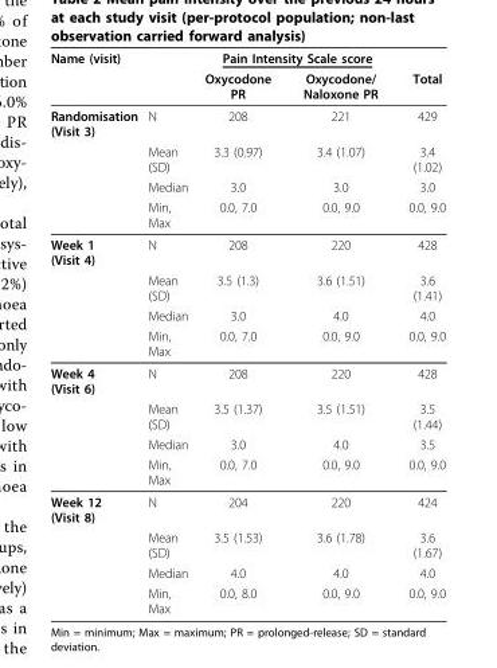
<table><thead><tr><td rowspan="2">Name (visit)</td><td colspan="4">Pain Intensity Scale score</td></tr><tr><td></td><td>Oxycodone PR</td><td>Oxycodone/ Naloxone PR</td><td>Total</td></tr></thead><tbody><tr><td rowspan="4">Randomisation (Visit 3)</td><td>N</td><td>208</td><td>221</td><td>429</td></tr><tr><td>Mean (SD)</td><td>3.3 (0.97)</td><td>3.4 (1.07)</td><td>3.4 (1.02)</td></tr><tr><td>Median</td><td>3.0</td><td>3.0</td><td>3.0</td></tr><tr><td>Min, Max</td><td>0.0, 7.0</td><td>0.0, 9.0</td><td>0.0, 9.0</td></tr><tr><td rowspan="4">Week 1 (Visit 4)</td><td>N</td><td>208</td><td>220</td><td>428</td></tr><tr><td>Mean (SD)</td><td>3.5 (1.3)</td><td>3.6 (1.51)</td><td>3.6 (1.41)</td></tr><tr><td>Median</td><td>3.0</td><td>4.0</td><td>4.0</td></tr><tr><td>Min, Max</td><td>0.0, 7.0</td><td>0.0, 9.0</td><td>0.0, 9.0</td></tr><tr><td rowspan="4">Week 4 (Visit 6)</td><td>N</td><td>208</td><td>220</td><td>428</td></tr><tr><td>Mean (SD)</td><td>3.5 (1.37)</td><td>3.5 (1.51)</td><td>3.5 (1.44)</td></tr><tr><td>Median</td><td>3.0</td><td>4.0</td><td>3.5</td></tr><tr><td>Min, Max</td><td>0.0, 7.0</td><td>0.0, 9.0</td><td>0.0, 9.0</td></tr><tr><td rowspan="4">Week 12 (Visit 8)</td><td>N</td><td>204</td><td>220</td><td>424</td></tr><tr><td>Mean (SD)</td><td>3.5 (1.53)</td><td>3.6 (1.78)</td><td>3.6 (1.67)</td></tr><tr><td>Median</td><td>4.0</td><td>4.0</td><td>4.0</td></tr><tr><td>Min, Max</td><td>0.0, 8.0</td><td>0.0, 9.0</td><td>0.0, 9.0</td></tr></tbody></table>